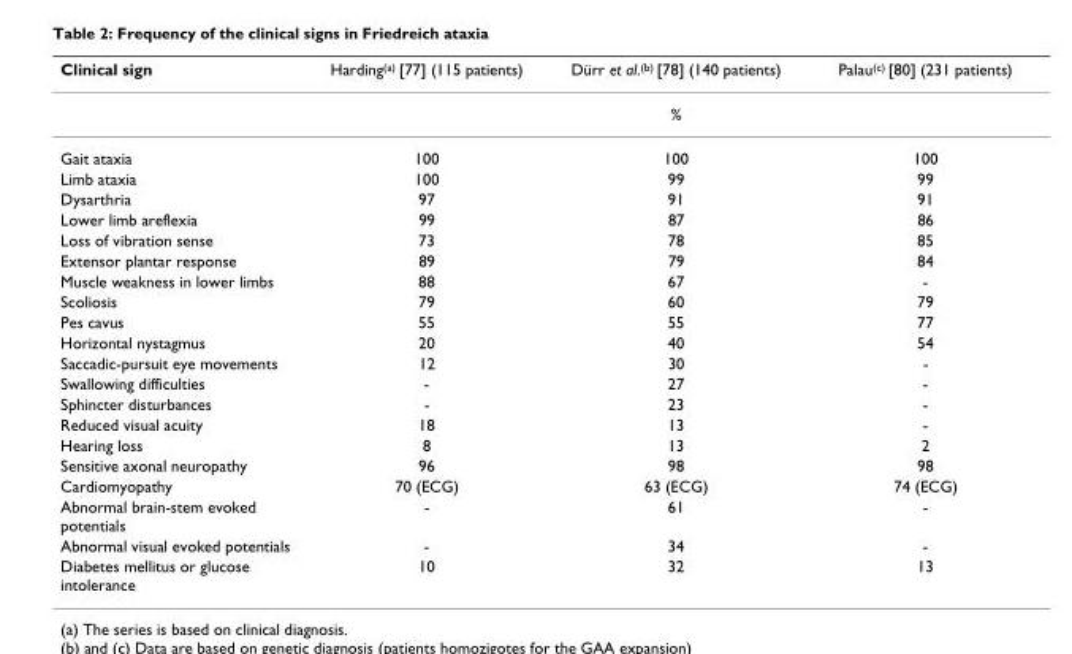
<table><thead><tr><td>Clinical sign</td><td>Harding<sup>(a)</sup> [77] (115 patients)</td><td>Dürr et al.<sup>(b)</sup> [78] (140 patients)</td><td>Palau<sup>(c)</sup> [80] (231 patients)</td></tr></thead><tbody><tr><td></td><td colspan="3">%</td></tr><tr><td>Gait ataxia</td><td>100</td><td>100</td><td>100</td></tr><tr><td>Limb ataxia</td><td>100</td><td>99</td><td>99</td></tr><tr><td>Dysarthria</td><td>97</td><td>91</td><td>91</td></tr><tr><td>Lower limb areflexia</td><td>99</td><td>87</td><td>86</td></tr><tr><td>Loss of vibration sense</td><td>73</td><td>78</td><td>85</td></tr><tr><td>Extensor plantar response</td><td>89</td><td>79</td><td>84</td></tr><tr><td>Muscle weakness in lower limbs</td><td>88</td><td>67</td><td>-</td></tr><tr><td>Scoliosis</td><td>79</td><td>60</td><td>79</td></tr><tr><td>Pes cavus</td><td>55</td><td>55</td><td>77</td></tr><tr><td>Horizontal nystagmus</td><td>20</td><td>40</td><td>54</td></tr><tr><td>Saccadic-pursuit eye movements</td><td>12</td><td>30</td><td>-</td></tr><tr><td>Swallowing difficulties</td><td>-</td><td>27</td><td>-</td></tr><tr><td>Sphincter disturbances</td><td>-</td><td>23</td><td>-</td></tr><tr><td>Reduced visual acuity</td><td>18</td><td>13</td><td>-</td></tr><tr><td>Hearing loss</td><td>8</td><td>13</td><td>2</td></tr><tr><td>Sensitive axonal neuropathy</td><td>96</td><td>98</td><td>98</td></tr><tr><td>Cardiomyopathy</td><td>70 (ECG)</td><td>63 (ECG)</td><td>74 (ECG)</td></tr><tr><td>Abnormal brain-stem evoked potentials</td><td>-</td><td>61</td><td>-</td></tr><tr><td>Abnormal visual evoked potentials</td><td>-</td><td>34</td><td>-</td></tr><tr><td>Diabetes mellitus or glucose intolerance</td><td>10</td><td>32</td><td>13</td></tr></tbody></table>